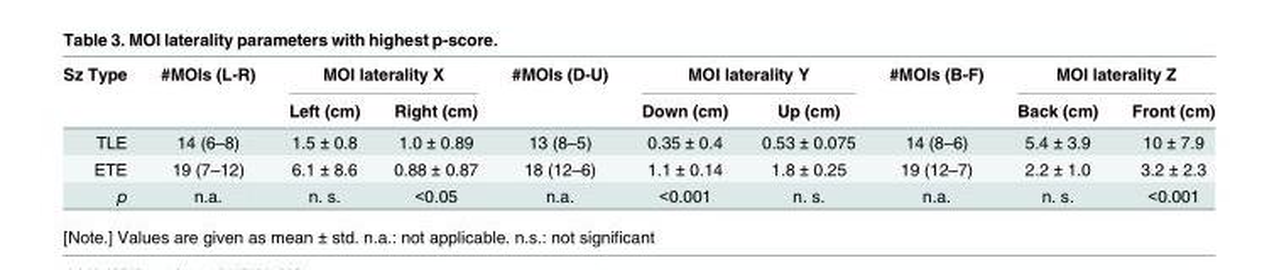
<table><thead><tr><td rowspan="2">Sz Type</td><td rowspan="2">#MOIs (L-R)</td><td colspan="2">MOI laterality X</td><td rowspan="2">#MOIs (D-U)</td><td colspan="2">MOI laterality Y</td><td rowspan="2">#MOIs (B-F)</td><td colspan="2">MOI laterality Z</td></tr><tr><td>Left (cm)</td><td>Right (cm)</td><td>Down (cm)</td><td>Up (cm)</td><td>Back (cm)</td><td>Front (cm)</td></tr></thead><tbody><tr><td>TLE</td><td>14 (6–8)</td><td>1.5 ± 0.8</td><td>1.0 ± 0.89</td><td>13 (8–5)</td><td>0.35 ± 0.4</td><td>0.53 ± 0.075</td><td>14 (8–6)</td><td>5.4 ± 3.9</td><td>10 ± 7.9</td></tr><tr><td>ETE</td><td>19 (7–12)</td><td>6.1 ± 8.6</td><td>0.88 ± 0.87</td><td>18 (12–6)</td><td>1.1 ± 0.14</td><td>1.8 ± 0.25</td><td>19 (12–7)</td><td>2.2 ± 1.0</td><td>3.2 ± 2.3</td></tr><tr><td>p</td><td>n.a.</td><td>n. s.</td><td>&lt;0.05</td><td>n.a.</td><td>&lt;0.001</td><td>n. s.</td><td>n.a.</td><td>n. s.</td><td>&lt;0.001</td></tr></tbody></table>